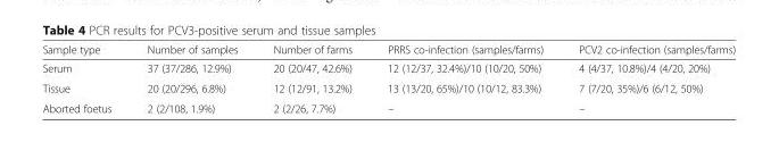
<table><thead><tr><td>Sample type</td><td>Number of samples</td><td>Number of farms</td><td>PRRS co-infection (samples/farms)</td><td>PCV2 co-infection (samples/farms)</td></tr></thead><tbody><tr><td>Serum</td><td>37 (37/286, 12.9%)</td><td>20 (20/47, 42.6%)</td><td>12 (12/37, 32.4%)/10 (10/20, 50%)</td><td>4 (4/37, 10.8%)/4 (4/20, 20%)</td></tr><tr><td>Tissue</td><td>20 (20/296, 6.8%)</td><td>12 (12/91, 13.2%)</td><td>13 (13/20, 65%)/10 (10/12, 83.3%)</td><td>7 (7/20, 35%)/6 (6/12, 50%)</td></tr><tr><td>Aborted foetus</td><td>2 (2/108, 1.9%)</td><td>2 (2/26, 7.7%)</td><td>–</td><td>–</td></tr></tbody></table>